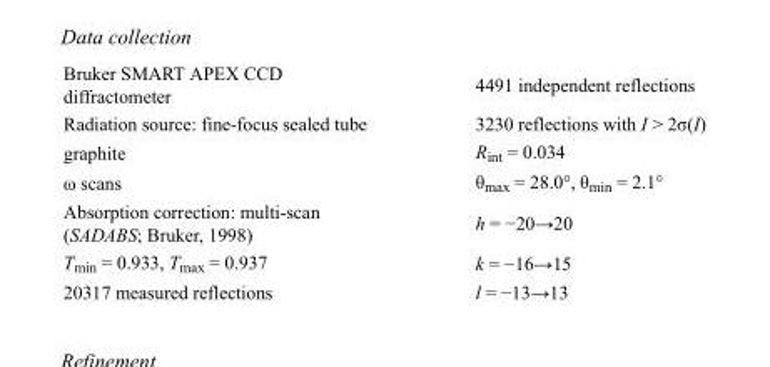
<table><tbody><tr><td>Bruker SMART APEX CCD diffractometer</td><td>4491 independent reflections</td></tr><tr><td>Radiation source: fine-focus sealed tube</td><td>3230 reflections with I &gt; 2σ(I)</td></tr><tr><td>graphite</td><td>R<sub>int</sub> = 0.034</td></tr><tr><td>ω scans</td><td>θ<sub>max</sub> = 28.0°, θ<sub>min</sub> = 2.1°</td></tr><tr><td>Absorption correction: multi-scan (SADABS; Bruker, 1998)</td><td>h = −20→20</td></tr><tr><td>T<sub>min</sub> = 0.933, T<sub>max</sub> = 0.937</td><td>k = −16→15</td></tr><tr><td>20317 measured reflections</td><td>l = −13→13</td></tr></tbody></table>